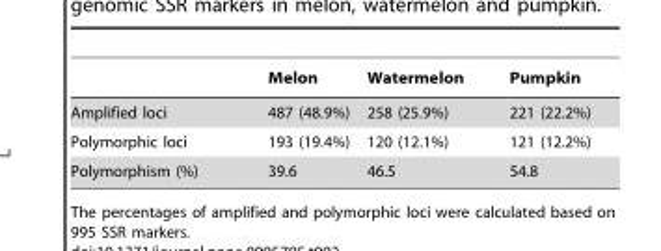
<table><thead><tr><td></td><td>Melon</td><td>Watermelon</td><td>Pumpkin</td></tr></thead><tbody><tr><td>Amplified loci</td><td>487 (48.9%)</td><td>258 (25.9%)</td><td>221 (22.2%)</td></tr><tr><td>Polymorphic loci</td><td>193 (19.4%)</td><td>120 (12.1%)</td><td>121 (12.2%)</td></tr><tr><td>Polymorphism (%)</td><td>39.6</td><td>46.5</td><td>54.8</td></tr></tbody></table>